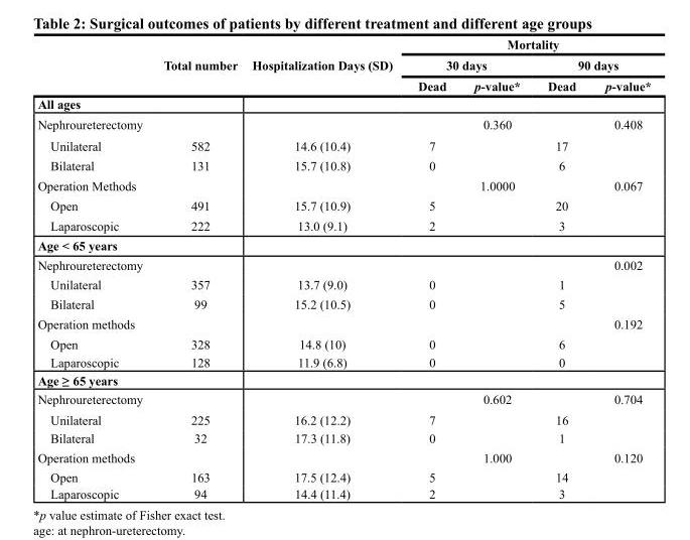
<table><thead><tr><td rowspan="3"></td><td rowspan="3">Total number</td><td rowspan="3">Hospitalization Days (SD)</td><td colspan="4">Mortality</td></tr><tr><td colspan="2">30 days</td><td colspan="2">90 days</td></tr><tr><td>Dead</td><td>p-value*</td><td>Dead</td><td>p-value*</td></tr></thead><tbody><tr><td colspan="7">All ages</td></tr><tr><td>Nephroureterectomy</td><td></td><td></td><td></td><td>0.360</td><td></td><td>0.408</td></tr><tr><td>Unilateral</td><td>582</td><td>14.6 (10.4)</td><td>7</td><td></td><td>17</td><td></td></tr><tr><td>Bilateral</td><td>131</td><td>15.7 (10.8)</td><td>0</td><td></td><td>6</td><td></td></tr><tr><td>Operation Methods</td><td></td><td></td><td></td><td>1.0000</td><td></td><td>0.067</td></tr><tr><td>Open</td><td>491</td><td>15.7 (10.9)</td><td>5</td><td></td><td>20</td><td></td></tr><tr><td>Laparoscopic</td><td>222</td><td>13.0 (9.1)</td><td>2</td><td></td><td>3</td><td></td></tr><tr><td colspan="7">Age &lt; 65 years</td></tr><tr><td>Nephroureterectomy</td><td></td><td></td><td></td><td></td><td></td><td>0.002</td></tr><tr><td>Unilateral</td><td>357</td><td>13.7 (9.0)</td><td>0</td><td></td><td>1</td><td></td></tr><tr><td>Bilateral</td><td>99</td><td>15.2 (10.5)</td><td>0</td><td></td><td>5</td><td></td></tr><tr><td>Operation methods</td><td></td><td></td><td></td><td></td><td></td><td>0.192</td></tr><tr><td>Open</td><td>328</td><td>14.8 (10)</td><td>0</td><td></td><td>6</td><td></td></tr><tr><td>Laparoscopic</td><td>128</td><td>11.9 (6.8)</td><td>0</td><td></td><td>0</td><td></td></tr><tr><td colspan="7">Age ≥ 65 years</td></tr><tr><td>Nephroureterectomy</td><td></td><td></td><td></td><td>0.602</td><td></td><td>0.704</td></tr><tr><td>Unilateral</td><td>225</td><td>16.2 (12.2)</td><td>7</td><td></td><td>16</td><td></td></tr><tr><td>Bilateral</td><td>32</td><td>17.3 (11.8)</td><td>0</td><td></td><td>1</td><td></td></tr><tr><td>Operation methods</td><td></td><td></td><td></td><td>1.000</td><td></td><td>0.120</td></tr><tr><td>Open</td><td>163</td><td>17.5 (12.4)</td><td>5</td><td></td><td>14</td><td></td></tr><tr><td>Laparoscopic</td><td>94</td><td>14.4 (11.4)</td><td>2</td><td></td><td>3</td><td></td></tr></tbody></table>